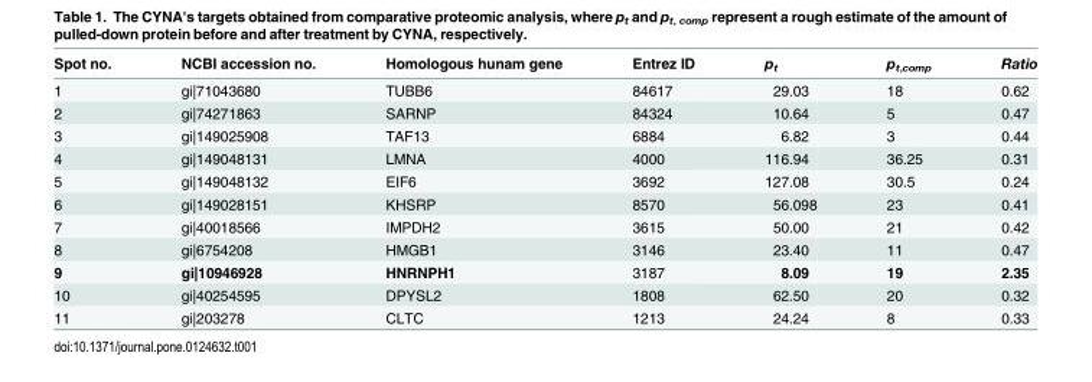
<table><thead><tr><td>Spot no.</td><td>NCBI accession no.</td><td>Homologous hunam gene</td><td>Entrez ID</td><td>p<sub>t</sub></td><td>p<sub>t,comp</sub></td><td>Ratio</td></tr></thead><tbody><tr><td>1</td><td>gi|71043680</td><td>TUBB6</td><td>84617</td><td>29.03</td><td>18</td><td>0.62</td></tr><tr><td>2</td><td>gi|74271863</td><td>SARNP</td><td>84324</td><td>10.64</td><td>5</td><td>0.47</td></tr><tr><td>3</td><td>gi|149025908</td><td>TAF13</td><td>6884</td><td>6.82</td><td>3</td><td>0.44</td></tr><tr><td>4</td><td>gi|149048131</td><td>LMNA</td><td>4000</td><td>116.94</td><td>36.25</td><td>0.31</td></tr><tr><td>5</td><td>gi|149048132</td><td>EIF6</td><td>3692</td><td>127.08</td><td>30.5</td><td>0.24</td></tr><tr><td>6</td><td>gi|149028151</td><td>KHSRP</td><td>8570</td><td>56.098</td><td>23</td><td>0.41</td></tr><tr><td>7</td><td>gi|40018566</td><td>IMPDH2</td><td>3615</td><td>50.00</td><td>21</td><td>0.42</td></tr><tr><td>8</td><td>gi|6754208</td><td>HMGB1</td><td>3146</td><td>23.40</td><td>11</td><td>0.47</td></tr><tr><td>9</td><td>gi|10946928</td><td>HNRNPH1</td><td>3187</td><td>8.09</td><td>19</td><td>2.35</td></tr><tr><td>10</td><td>gi|40254595</td><td>DPYSL2</td><td>1808</td><td>62.50</td><td>20</td><td>0.32</td></tr><tr><td>11</td><td>gi|203278</td><td>CLTC</td><td>1213</td><td>24.24</td><td>8</td><td>0.33</td></tr></tbody></table>